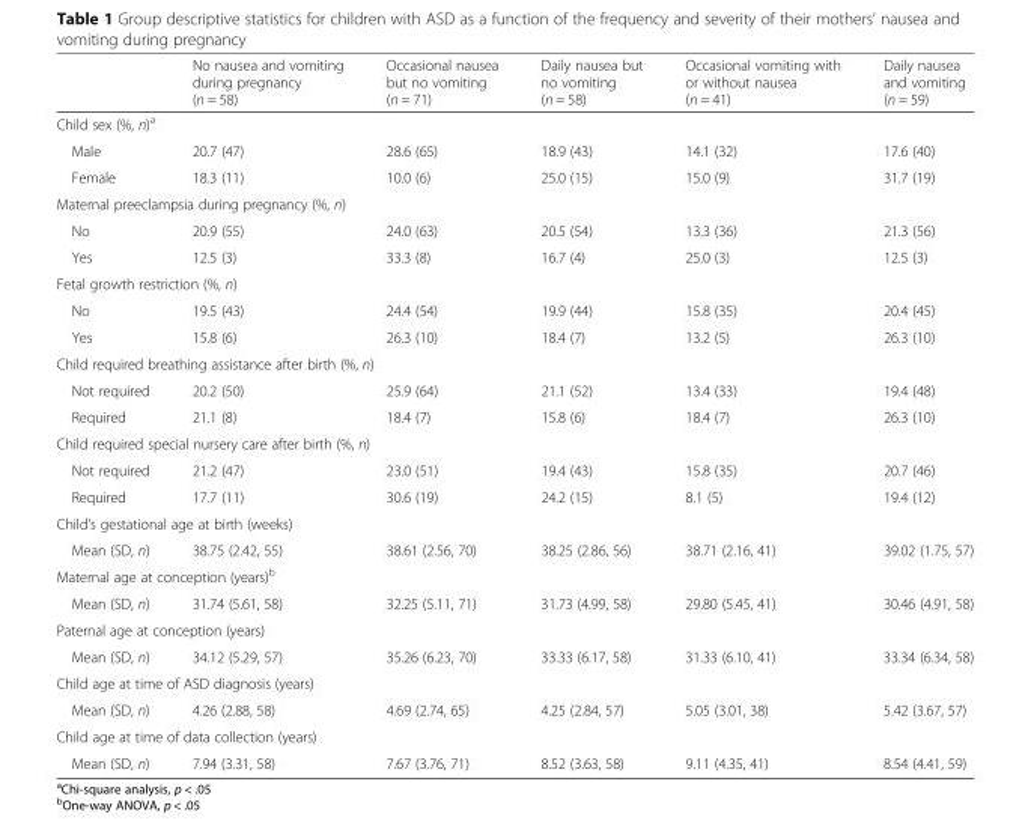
<table><thead><tr><td></td><td>No nausea and vomiting during pregnancy (n = 58)</td><td>Occasional nausea but no vomiting (n = 71)</td><td>Daily nausea but no vomiting (n = 58)</td><td>Occasional vomiting with or without nausea (n = 41)</td><td>Daily nausea and vomiting (n = 59)</td></tr></thead><tbody><tr><td colspan="6">Child sex (%, n)<sup>a</sup></td></tr><tr><td>Male</td><td>20.7 (47)</td><td>28.6 (65)</td><td>18.9 (43)</td><td>14.1 (32)</td><td>17.6 (40)</td></tr><tr><td>Female</td><td>18.3 (11)</td><td>10.0 (6)</td><td>25.0 (15)</td><td>15.0 (9)</td><td>31.7 (19)</td></tr><tr><td colspan="6">Maternal preeclampsia during pregnancy (%, n)</td></tr><tr><td>No</td><td>20.9 (55)</td><td>24.0 (63)</td><td>20.5 (54)</td><td>13.3 (36)</td><td>21.3 (56)</td></tr><tr><td>Yes</td><td>12.5 (3)</td><td>33.3 (8)</td><td>16.7 (4)</td><td>25.0 (3)</td><td>12.5 (3)</td></tr><tr><td colspan="6">Fetal growth restriction (%, n)</td></tr><tr><td>No</td><td>19.5 (43)</td><td>24.4 (54)</td><td>19.9 (44)</td><td>15.8 (35)</td><td>20.4 (45)</td></tr><tr><td>Yes</td><td>15.8 (6)</td><td>26.3 (10)</td><td>18.4 (7)</td><td>13.2 (5)</td><td>26.3 (10)</td></tr><tr><td colspan="6">Child required breathing assistance after birth (%, n)</td></tr><tr><td>Not required</td><td>20.2 (50)</td><td>25.9 (64)</td><td>21.1 (52)</td><td>13.4 (33)</td><td>19.4 (48)</td></tr><tr><td>Required</td><td>21.1 (8)</td><td>18.4 (7)</td><td>15.8 (6)</td><td>18.4 (7)</td><td>26.3 (10)</td></tr><tr><td colspan="6">Child required special nursery care after birth (%, n)</td></tr><tr><td>Not required</td><td>21.2 (47)</td><td>23.0 (51)</td><td>19.4 (43)</td><td>15.8 (35)</td><td>20.7 (46)</td></tr><tr><td>Required</td><td>17.7 (11)</td><td>30.6 (19)</td><td>24.2 (15)</td><td>8.1 (5)</td><td>19.4 (12)</td></tr><tr><td colspan="6">Child’s gestational age at birth (weeks)</td></tr><tr><td>Mean (SD, n)</td><td>38.75 (2.42, 55)</td><td>38.61 (2.56, 70)</td><td>38.25 (2.86, 56)</td><td>38.71 (2.16, 41)</td><td>39.02 (1.75, 57)</td></tr><tr><td colspan="6">Maternal age at conception (years)<sup>b</sup></td></tr><tr><td>Mean (SD, n)</td><td>31.74 (5.61, 58)</td><td>32.25 (5.11, 71)</td><td>31.73 (4.99, 58)</td><td>29.80 (5.45, 41)</td><td>30.46 (4.91, 58)</td></tr><tr><td colspan="6">Paternal age at conception (years)</td></tr><tr><td>Mean (SD, n)</td><td>34.12 (5.29, 57)</td><td>35.26 (6.23, 70)</td><td>33.33 (6.17, 58)</td><td>31.33 (6.10, 41)</td><td>33.34 (6.34, 58)</td></tr><tr><td colspan="6">Child age at time of ASD diagnosis (years)</td></tr><tr><td>Mean (SD, n)</td><td>4.26 (2.88, 58)</td><td>4.69 (2.74, 65)</td><td>4.25 (2.84, 57)</td><td>5.05 (3.01, 38)</td><td>5.42 (3.67, 57)</td></tr><tr><td colspan="6">Child age at time of data collection (years)</td></tr><tr><td>Mean (SD, n)</td><td>7.94 (3.31, 58)</td><td>7.67 (3.76, 71)</td><td>8.52 (3.63, 58)</td><td>9.11 (4.35, 41)</td><td>8.54 (4.41, 59)</td></tr></tbody></table>